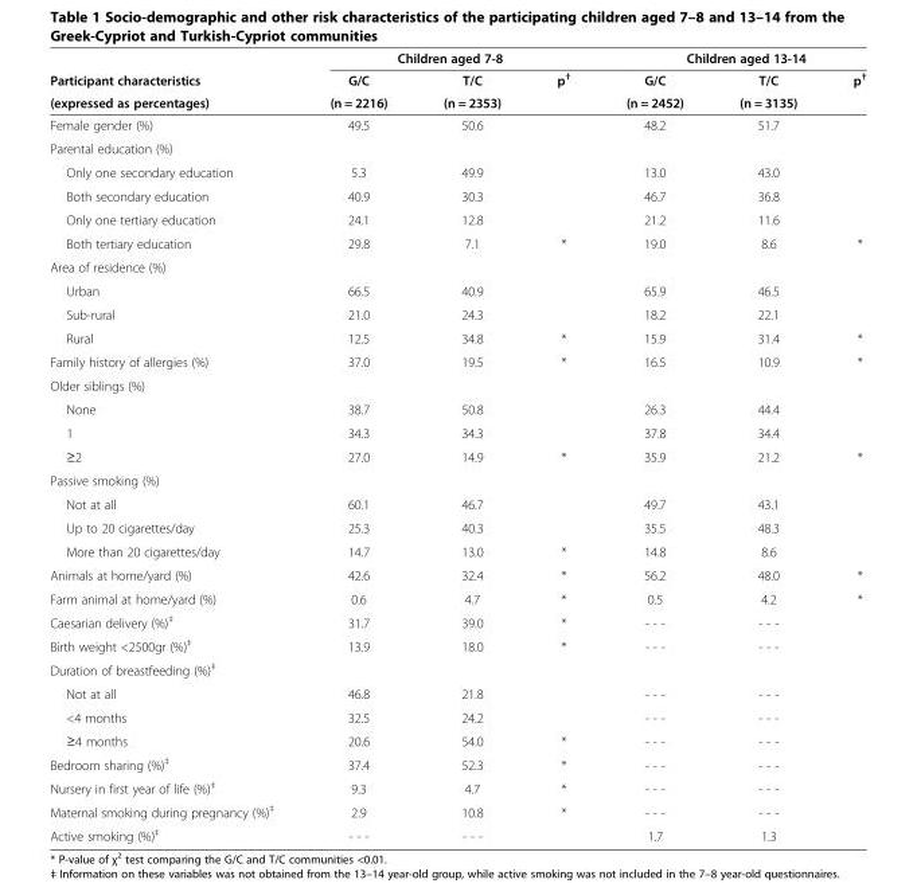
<table><thead><tr><td rowspan="3">Participant characteristics (expressed as percentages)</td><td colspan="3">Children aged 7-8</td><td colspan="3">Children aged 13-14</td></tr><tr><td rowspan="2">G/C (n = 2216)</td><td rowspan="2">T/C (n = 2353)</td><td rowspan="2">p<sup>†</sup></td><td rowspan="2">G/C (n = 2452)</td><td rowspan="2">T/C (n = 3135)</td><td rowspan="2">p<sup>†</sup></td></tr><tr></tr></thead><tbody><tr><td>Female gender (%)</td><td>49.5</td><td>50.6</td><td></td><td>48.2</td><td>51.7</td><td></td></tr><tr><td colspan="7">Parental education (%)</td></tr><tr><td>Only one secondary education</td><td>5.3</td><td>49.9</td><td></td><td>13.0</td><td>43.0</td><td></td></tr><tr><td>Both secondary education</td><td>40.9</td><td>30.3</td><td></td><td>46.7</td><td>36.8</td><td></td></tr><tr><td>Only one tertiary education</td><td>24.1</td><td>12.8</td><td></td><td>21.2</td><td>11.6</td><td></td></tr><tr><td>Both tertiary education</td><td>29.8</td><td>7.1</td><td>*</td><td>19.0</td><td>8.6</td><td>*</td></tr><tr><td colspan="7">Area of residence (%)</td></tr><tr><td>Urban</td><td>66.5</td><td>40.9</td><td></td><td>65.9</td><td>46.5</td><td></td></tr><tr><td>Sub-rural</td><td>21.0</td><td>24.3</td><td></td><td>18.2</td><td>22.1</td><td></td></tr><tr><td>Rural</td><td>12.5</td><td>34.8</td><td>*</td><td>15.9</td><td>31.4</td><td>*</td></tr><tr><td>Family history of allergies (%)</td><td>37.0</td><td>19.5</td><td>*</td><td>16.5</td><td>10.9</td><td>*</td></tr><tr><td colspan="7">Older siblings (%)</td></tr><tr><td>None</td><td>38.7</td><td>50.8</td><td></td><td>26.3</td><td>44.4</td><td></td></tr><tr><td>1</td><td>34.3</td><td>34.3</td><td></td><td>37.8</td><td>34.4</td><td></td></tr><tr><td>≥2</td><td>27.0</td><td>14.9</td><td>*</td><td>35.9</td><td>21.2</td><td>*</td></tr><tr><td colspan="7">Passive smoking (%)</td></tr><tr><td>Not at all</td><td>60.1</td><td>46.7</td><td></td><td>49.7</td><td>43.1</td><td></td></tr><tr><td>Up to 20 cigarettes/day</td><td>25.3</td><td>40.3</td><td></td><td>35.5</td><td>48.3</td><td></td></tr><tr><td>More than 20 cigarettes/day</td><td>14.7</td><td>13.0</td><td>*</td><td>14.8</td><td>8.6</td><td></td></tr><tr><td>Animals at home/yard (%)</td><td>42.6</td><td>32.4</td><td>*</td><td>56.2</td><td>48.0</td><td>*</td></tr><tr><td>Farm animal at home/yard (%)</td><td>0.6</td><td>4.7</td><td>*</td><td>0.5</td><td>4.2</td><td>*</td></tr><tr><td>Caesarian delivery (%)<sup>‡</sup></td><td>31.7</td><td>39.0</td><td>*</td><td>- - -</td><td>- - -</td><td></td></tr><tr><td>Birth weight &lt;2500gr (%)<sup>‡</sup></td><td>13.9</td><td>18.0</td><td>*</td><td>- - -</td><td>- - -</td><td></td></tr><tr><td colspan="7">Duration of breastfeeding (%)<sup>‡</sup></td></tr><tr><td>Not at all</td><td>46.8</td><td>21.8</td><td></td><td>- - -</td><td>- - -</td><td></td></tr><tr><td>&lt;4 months</td><td>32.5</td><td>24.2</td><td></td><td>- - -</td><td>- - -</td><td></td></tr><tr><td>≥4 months</td><td>20.6</td><td>54.0</td><td>*</td><td>- - -</td><td>- - -</td><td></td></tr><tr><td>Bedroom sharing (%)<sup>‡</sup></td><td>37.4</td><td>52.3</td><td>*</td><td>- - -</td><td>- - -</td><td></td></tr><tr><td>Nursery in first year of life (%)<sup>‡</sup></td><td>9.3</td><td>4.7</td><td>*</td><td>- - -</td><td>- - -</td><td></td></tr><tr><td>Maternal smoking during pregnancy (%)<sup>‡</sup></td><td>2.9</td><td>10.8</td><td>*</td><td>- - -</td><td>- - -</td><td></td></tr><tr><td>Active smoking (%)<sup>‡</sup></td><td>- - -</td><td>- - -</td><td></td><td>1.7</td><td>1.3</td><td></td></tr></tbody></table>